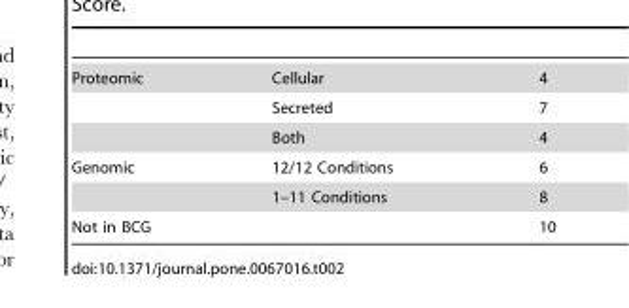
<table><tbody><tr><td rowspan="3">Proteomic</td><td>Cellular</td><td>4</td></tr><tr><td>Secreted</td><td>7</td></tr><tr><td>Both</td><td>4</td></tr><tr><td rowspan="2">Genomic</td><td>12/12 Conditions</td><td>6</td></tr><tr><td>1–11 Conditions</td><td>8</td></tr><tr><td>Not in BCG</td><td></td><td>10</td></tr></tbody></table>